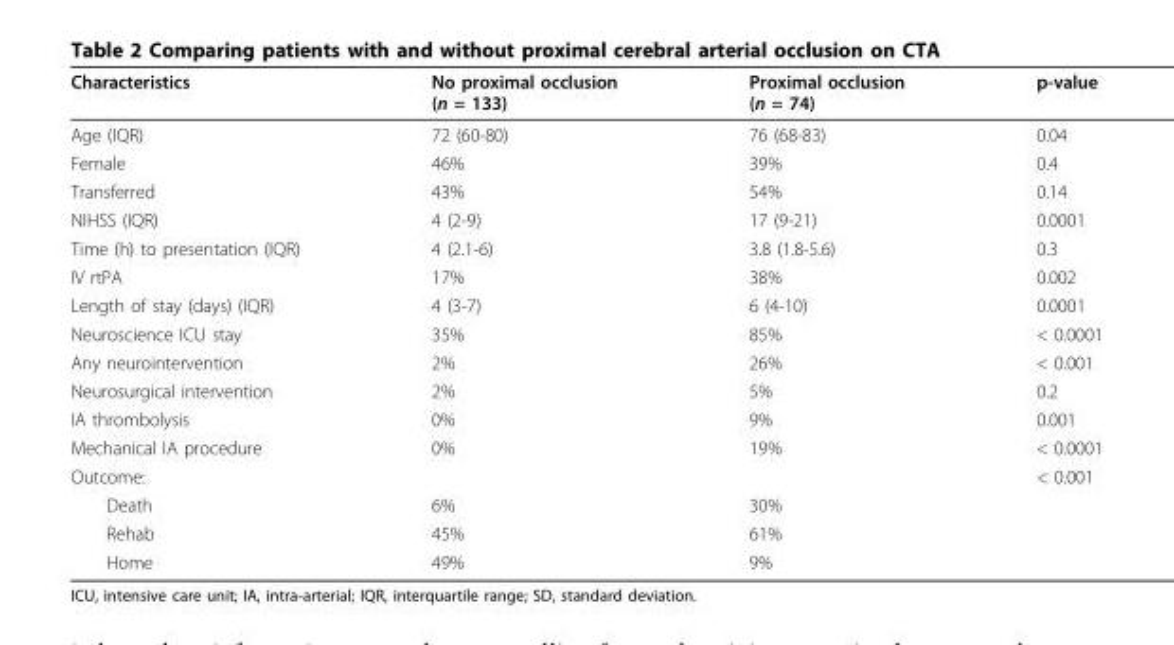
<table><thead><tr><td>Characteristics</td><td>No proximal occlusion (n = 133)</td><td>Proximal occlusion (n = 74)</td><td>p-value</td></tr></thead><tbody><tr><td>Age (IQR)</td><td>72 (60-80)</td><td>76 (68-83)</td><td>0.04</td></tr><tr><td>Female</td><td>46%</td><td>39%</td><td>0.4</td></tr><tr><td>Transferred</td><td>43%</td><td>54%</td><td>0.14</td></tr><tr><td>NIHSS (IQR)</td><td>4 (2-9)</td><td>17 (9-21)</td><td>0.0001</td></tr><tr><td>Time (h) to presentation (IQR)</td><td>4 (2.1-6)</td><td>3.8 (1.8-5.6)</td><td>0.3</td></tr><tr><td>IV rtPA</td><td>17%</td><td>38%</td><td>0.002</td></tr><tr><td>Length of stay (days) (IQR)</td><td>4 (3-7)</td><td>6 (4-10)</td><td>0.0001</td></tr><tr><td>Neuroscience ICU stay</td><td>35%</td><td>85%</td><td>&lt; 0.0001</td></tr><tr><td>Any neurointervention</td><td>2%</td><td>26%</td><td>&lt; 0.001</td></tr><tr><td>Neurosurgical intervention</td><td>2%</td><td>5%</td><td>0.2</td></tr><tr><td>IA thrombolysis</td><td>0%</td><td>9%</td><td>0.001</td></tr><tr><td>Mechanical IA procedure</td><td>0%</td><td>19%</td><td>&lt; 0.0001</td></tr><tr><td colspan="3">Outcome:</td><td>&lt; 0.001</td></tr><tr><td>Death</td><td>6%</td><td>30%</td><td></td></tr><tr><td>Rehab</td><td>45%</td><td>61%</td><td></td></tr><tr><td>Home</td><td>49%</td><td>9%</td><td></td></tr></tbody></table>